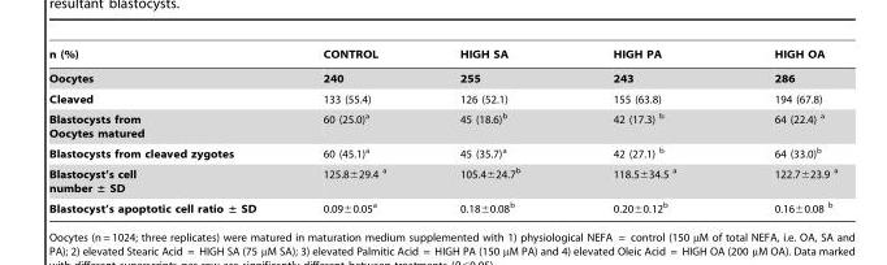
<table><thead><tr><td>n (%)</td><td>CONTROL</td><td>HIGH SA</td><td>HIGH PA</td><td>HIGH OA</td></tr></thead><tbody><tr><td>Oocytes</td><td>240</td><td>255</td><td>243</td><td>286</td></tr><tr><td>Cleaved</td><td>133 (55.4)</td><td>126 (52.1)</td><td>155 (63.8)</td><td>194 (67.8)</td></tr><tr><td>Blastocysts from Oocytes matured</td><td>60 (25.0)<sup>a</sup></td><td>45 (18.6)<sup>b</sup></td><td>42 (17.3) <sup>b</sup></td><td>64 (22.4) <sup>a</sup></td></tr><tr><td>Blastocysts from cleaved zygotes</td><td>60 (45.1)<sup>a</sup></td><td>45 (35.7)<sup>a</sup></td><td>42 (27.1) <sup>b</sup></td><td>64 (33.0)<sup>b</sup></td></tr><tr><td>Blastocyst’s cell number ± SD</td><td>125.8±29.4 <sup>a</sup></td><td>105.4±24.7<sup>b</sup></td><td>118.5±34.5 <sup>a</sup></td><td>122.7±23.9 <sup>a</sup></td></tr><tr><td>Blastocyst’s apoptotic cell ratio ± SD</td><td>0.09±0.05<sup>a</sup></td><td>0.18±0.08<sup>b</sup></td><td>0.20±0.12<sup>b</sup></td><td>0.16±0.08 <sup>b</sup></td></tr></tbody></table>